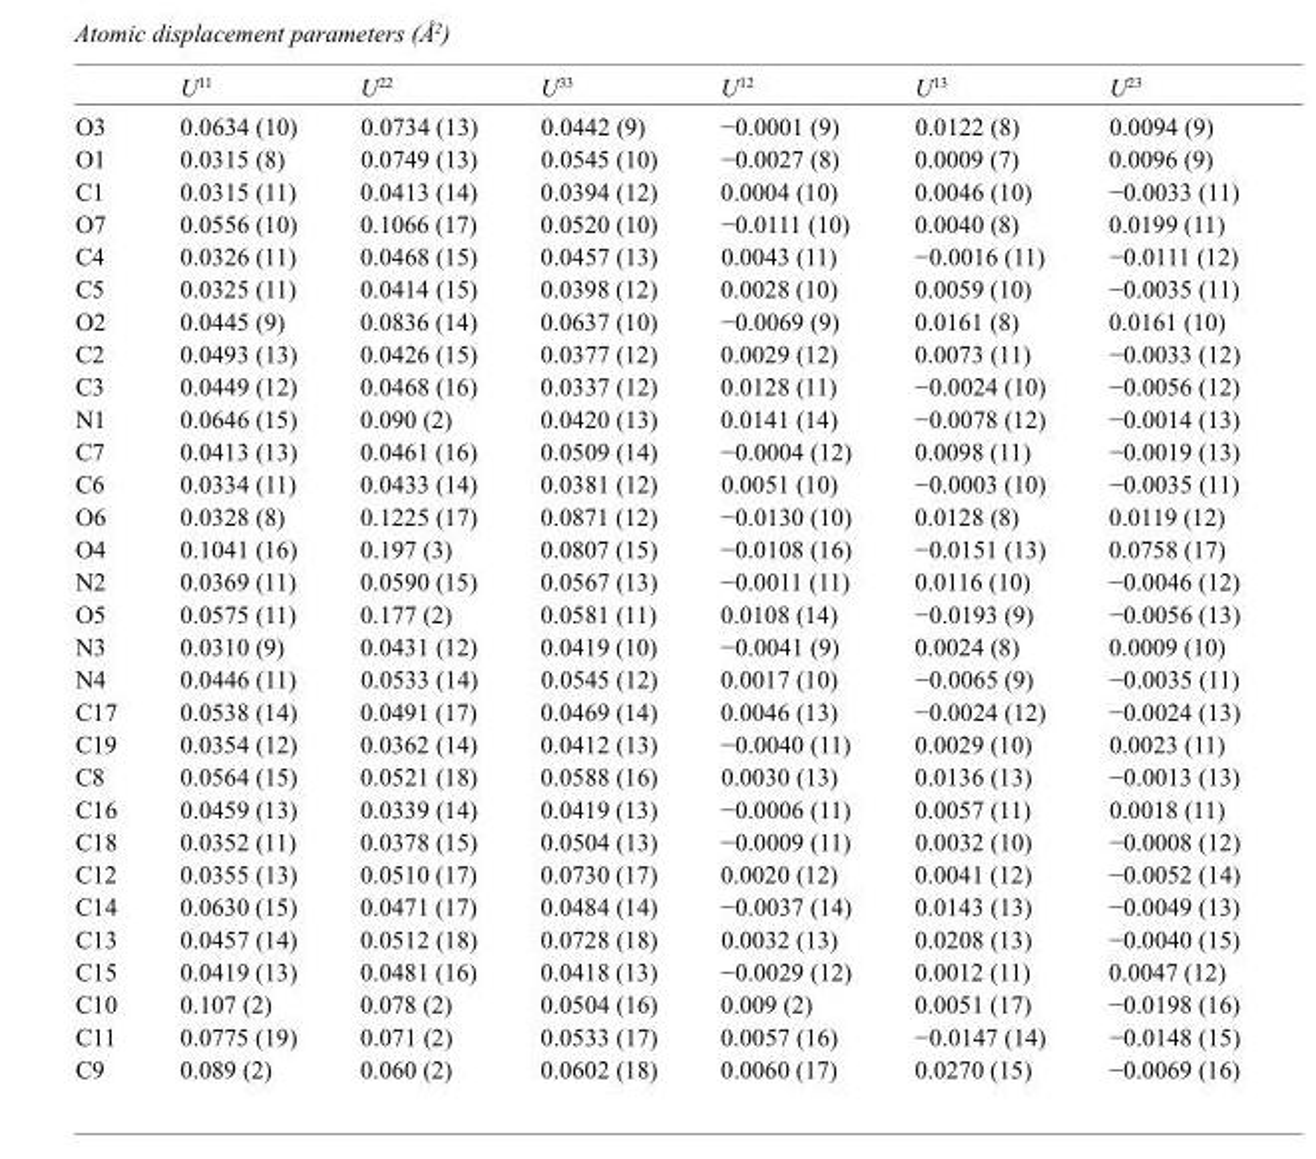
<table><thead><tr><td></td><td>U<sup>11</sup></td><td>U<sup>22</sup></td><td>U<sup>33</sup></td><td>U<sup>12</sup></td><td>U<sup>13</sup></td><td>U<sup>23</sup></td></tr></thead><tbody><tr><td>O3</td><td>0.0634 (10)</td><td>0.0734 (13)</td><td>0.0442 (9)</td><td>−0.0001 (9)</td><td>0.0122 (8)</td><td>0.0094 (9)</td></tr><tr><td>O1</td><td>0.0315 (8)</td><td>0.0749 (13)</td><td>0.0545 (10)</td><td>−0.0027 (8)</td><td>0.0009 (7)</td><td>0.0096 (9)</td></tr><tr><td>C1</td><td>0.0315 (11)</td><td>0.0413 (14)</td><td>0.0394 (12)</td><td>0.0004 (10)</td><td>0.0046 (10)</td><td>−0.0033 (11)</td></tr><tr><td>O7</td><td>0.0556 (10)</td><td>0.1066 (17)</td><td>0.0520 (10)</td><td>−0.0111 (10)</td><td>0.0040 (8)</td><td>0.0199 (11)</td></tr><tr><td>C4</td><td>0.0326 (11)</td><td>0.0468 (15)</td><td>0.0457 (13)</td><td>0.0043 (11)</td><td>−0.0016 (11)</td><td>−0.0111 (12)</td></tr><tr><td>C5</td><td>0.0325 (11)</td><td>0.0414 (15)</td><td>0.0398 (12)</td><td>0.0028 (10)</td><td>0.0059 (10)</td><td>−0.0035 (11)</td></tr><tr><td>O2</td><td>0.0445 (9)</td><td>0.0836 (14)</td><td>0.0637 (10)</td><td>−0.0069 (9)</td><td>0.0161 (8)</td><td>0.0161 (10)</td></tr><tr><td>C2</td><td>0.0493 (13)</td><td>0.0426 (15)</td><td>0.0377 (12)</td><td>0.0029 (12)</td><td>0.0073 (11)</td><td>−0.0033 (12)</td></tr><tr><td>C3</td><td>0.0449 (12)</td><td>0.0468 (16)</td><td>0.0337 (12)</td><td>0.0128 (11)</td><td>−0.0024 (10)</td><td>−0.0056 (12)</td></tr><tr><td>N1</td><td>0.0646 (15)</td><td>0.090 (2)</td><td>0.0420 (13)</td><td>0.0141 (14)</td><td>−0.0078 (12)</td><td>−0.0014 (13)</td></tr><tr><td>C7</td><td>0.0413 (13)</td><td>0.0461 (16)</td><td>0.0509 (14)</td><td>−0.0004 (12)</td><td>0.0098 (11)</td><td>−0.0019 (13)</td></tr><tr><td>C6</td><td>0.0334 (11)</td><td>0.0433 (14)</td><td>0.0381 (12)</td><td>0.0051 (10)</td><td>−0.0003 (10)</td><td>−0.0035 (11)</td></tr><tr><td>O6</td><td>0.0328 (8)</td><td>0.1225 (17)</td><td>0.0871 (12)</td><td>−0.0130 (10)</td><td>0.0128 (8)</td><td>0.0119 (12)</td></tr><tr><td>O4</td><td>0.1041 (16)</td><td>0.197 (3)</td><td>0.0807 (15)</td><td>−0.0108 (16)</td><td>−0.0151 (13)</td><td>0.0758 (17)</td></tr><tr><td>N2</td><td>0.0369 (11)</td><td>0.0590 (15)</td><td>0.0567 (13)</td><td>−0.0011 (11)</td><td>0.0116 (10)</td><td>−0.0046 (12)</td></tr><tr><td>O5</td><td>0.0575 (11)</td><td>0.177 (2)</td><td>0.0581 (11)</td><td>0.0108 (14)</td><td>−0.0193 (9)</td><td>−0.0056 (13)</td></tr><tr><td>N3</td><td>0.0310 (9)</td><td>0.0431 (12)</td><td>0.0419 (10)</td><td>−0.0041 (9)</td><td>0.0024 (8)</td><td>0.0009 (10)</td></tr><tr><td>N4</td><td>0.0446 (11)</td><td>0.0533 (14)</td><td>0.0545 (12)</td><td>0.0017 (10)</td><td>−0.0065 (9)</td><td>−0.0035 (11)</td></tr><tr><td>C17</td><td>0.0538 (14)</td><td>0.0491 (17)</td><td>0.0469 (14)</td><td>0.0046 (13)</td><td>−0.0024 (12)</td><td>−0.0024 (13)</td></tr><tr><td>C19</td><td>0.0354 (12)</td><td>0.0362 (14)</td><td>0.0412 (13)</td><td>−0.0040 (11)</td><td>0.0029 (10)</td><td>0.0023 (11)</td></tr><tr><td>C8</td><td>0.0564 (15)</td><td>0.0521 (18)</td><td>0.0588 (16)</td><td>0.0030 (13)</td><td>0.0136 (13)</td><td>−0.0013 (13)</td></tr><tr><td>C16</td><td>0.0459 (13)</td><td>0.0339 (14)</td><td>0.0419 (13)</td><td>−0.0006 (11)</td><td>0.0057 (11)</td><td>0.0018 (11)</td></tr><tr><td>C18</td><td>0.0352 (11)</td><td>0.0378 (15)</td><td>0.0504 (13)</td><td>−0.0009 (11)</td><td>0.0032 (10)</td><td>−0.0008 (12)</td></tr><tr><td>C12</td><td>0.0355 (13)</td><td>0.0510 (17)</td><td>0.0730 (17)</td><td>0.0020 (12)</td><td>0.0041 (12)</td><td>−0.0052 (14)</td></tr><tr><td>C14</td><td>0.0630 (15)</td><td>0.0471 (17)</td><td>0.0484 (14)</td><td>−0.0037 (14)</td><td>0.0143 (13)</td><td>−0.0049 (13)</td></tr><tr><td>C13</td><td>0.0457 (14)</td><td>0.0512 (18)</td><td>0.0728 (18)</td><td>0.0032 (13)</td><td>0.0208 (13)</td><td>−0.0040 (15)</td></tr><tr><td>C15</td><td>0.0419 (13)</td><td>0.0481 (16)</td><td>0.0418 (13)</td><td>−0.0029 (12)</td><td>0.0012 (11)</td><td>0.0047 (12)</td></tr><tr><td>C10</td><td>0.107 (2)</td><td>0.078 (2)</td><td>0.0504 (16)</td><td>0.009 (2)</td><td>0.0051 (17)</td><td>−0.0198 (16)</td></tr><tr><td>C11</td><td>0.0775 (19)</td><td>0.071 (2)</td><td>0.0533 (17)</td><td>0.0057 (16)</td><td>−0.0147 (14)</td><td>−0.0148 (15)</td></tr><tr><td>C9</td><td>0.089 (2)</td><td>0.060 (2)</td><td>0.0602 (18)</td><td>0.0060 (17)</td><td>0.0270 (15)</td><td>−0.0069 (16)</td></tr></tbody></table>